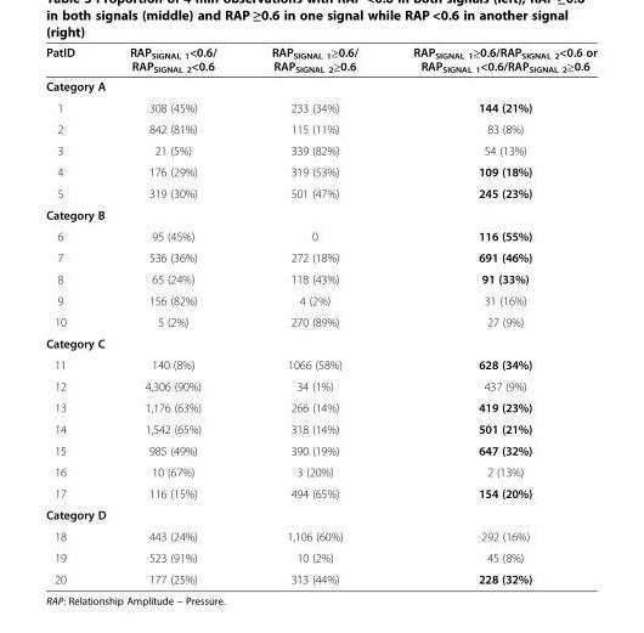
<table><thead><tr><td>PatID</td><td>RAP<sub>SIGNAL 1</sub>&lt;0.6/ RAP<sub>SIGNAL 2</sub>&lt;0.6</td><td>RAP<sub>SIGNAL 1</sub>≥0.6/ RAP<sub>SIGNAL 2</sub>≥0.6</td><td>RAP<sub>SIGNAL 1</sub>≥0.6/RAP<sub>SIGNAL 2</sub>&lt;0.6 or RAP<sub>SIGNAL 1</sub>&lt;0.6/RAP<sub>SIGNAL 2</sub>≥0.6</td></tr></thead><tbody><tr><td colspan="4">Category A</td></tr><tr><td>1</td><td>308 (45%)</td><td>233 (34%)</td><td>144 (21%)</td></tr><tr><td>2</td><td>842 (81%)</td><td>115 (11%)</td><td>83 (8%)</td></tr><tr><td>3</td><td>21 (5%)</td><td>339 (82%)</td><td>54 (13%)</td></tr><tr><td>4</td><td>176 (29%)</td><td>319 (53%)</td><td>109 (18%)</td></tr><tr><td>5</td><td>319 (30%)</td><td>501 (47%)</td><td>245 (23%)</td></tr><tr><td colspan="4">Category B</td></tr><tr><td>6</td><td>95 (45%)</td><td>0</td><td>116 (55%)</td></tr><tr><td>7</td><td>536 (36%)</td><td>272 (18%)</td><td>691 (46%)</td></tr><tr><td>8</td><td>65 (24%)</td><td>118 (43%)</td><td>91 (33%)</td></tr><tr><td>9</td><td>156 (82%)</td><td>4 (2%)</td><td>31 (16%)</td></tr><tr><td>10</td><td>5 (2%)</td><td>270 (89%)</td><td>27 (9%)</td></tr><tr><td colspan="4">Category C</td></tr><tr><td>11</td><td>140 (8%)</td><td>1066 (58%)</td><td>628 (34%)</td></tr><tr><td>12</td><td>4,306 (90%)</td><td>34 (1%)</td><td>437 (9%)</td></tr><tr><td>13</td><td>1,176 (63%)</td><td>266 (14%)</td><td>419 (23%)</td></tr><tr><td>14</td><td>1,542 (65%)</td><td>318 (14%)</td><td>501 (21%)</td></tr><tr><td>15</td><td>985 (49%)</td><td>390 (19%)</td><td>647 (32%)</td></tr><tr><td>16</td><td>10 (67%)</td><td>3 (20%)</td><td>2 (13%)</td></tr><tr><td>17</td><td>116 (15%)</td><td>494 (65%)</td><td>154 (20%)</td></tr><tr><td colspan="4">Category D</td></tr><tr><td>18</td><td>443 (24%)</td><td>1,106 (60%)</td><td>292 (16%)</td></tr><tr><td>19</td><td>523 (91%)</td><td>10 (2%)</td><td>45 (8%)</td></tr><tr><td>20</td><td>177 (25%)</td><td>313 (44%)</td><td>228 (32%)</td></tr></tbody></table>